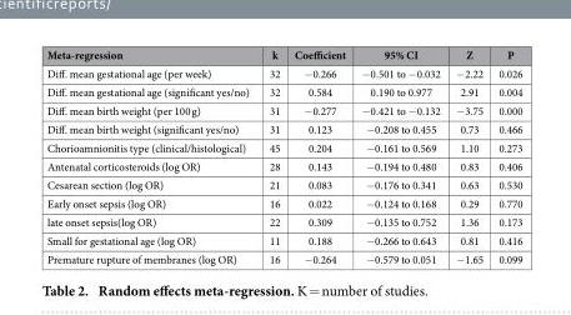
<table><thead><tr><td>Meta-regression</td><td>k</td><td>Coefficient</td><td>95% CI</td><td>Z</td><td>P</td></tr></thead><tbody><tr><td>Diff. mean gestational age (per week)</td><td>32</td><td>− 0.266</td><td>− 0.501 to − 0.032</td><td>− 2.22</td><td>0.026</td></tr><tr><td>Diff. mean gestational age (significant yes/no)</td><td>32</td><td>0.584</td><td>0.190 to 0.977</td><td>2.91</td><td>0.004</td></tr><tr><td>Diff. mean birth weight (per 100 g)</td><td>31</td><td>− 0.277</td><td>− 0.421 to − 0.132</td><td>− 3.75</td><td>0.000</td></tr><tr><td>Diff. mean birth weight (significant yes/no)</td><td>31</td><td>0.123</td><td>− 0.208 to 0.455</td><td>0.73</td><td>0.466</td></tr><tr><td>Chorioamnionitis type (clinical/histological)</td><td>45</td><td>0.204</td><td>− 0.161 to 0.569</td><td>1.10</td><td>0.273</td></tr><tr><td>Antenatal corticosteroids (log OR)</td><td>28</td><td>0.143</td><td>− 0.194 to 0.480</td><td>0.83</td><td>0.406</td></tr><tr><td>Cesarean section (log OR)</td><td>21</td><td>0.083</td><td>− 0.176 to 0.341</td><td>0.63</td><td>0.530</td></tr><tr><td>Early onset sepsis (log OR)</td><td>16</td><td>0.022</td><td>− 0.124 to 0.168</td><td>0.29</td><td>0.770</td></tr><tr><td>late onset sepsis(log OR)</td><td>22</td><td>0.309</td><td>− 0.135 to 0.752</td><td>1.36</td><td>0.173</td></tr><tr><td>Small for gestational age (log OR)</td><td>11</td><td>0.188</td><td>− 0.266 to 0.643</td><td>0.81</td><td>0.416</td></tr><tr><td>Premature rupture of membranes (log OR)</td><td>16</td><td>− 0.264</td><td>− 0.579 to 0.051</td><td>− 1.65</td><td>0.099</td></tr></tbody></table>